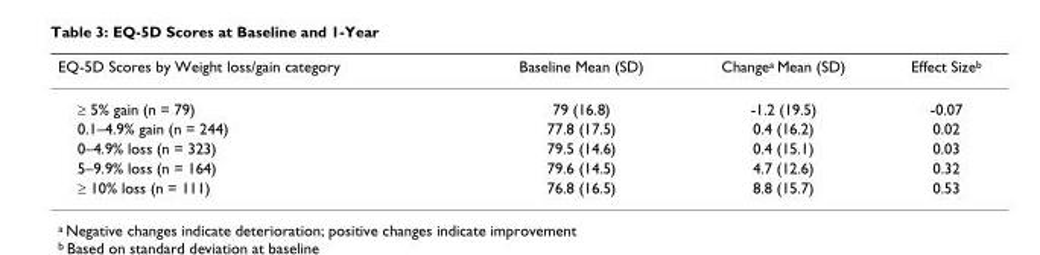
<table><thead><tr><td>EQ-5D Scores by Weight loss/gain category</td><td>Baseline Mean (SD)</td><td>Change<sup>a</sup> Mean (SD)</td><td>Effect Size<sup>b</sup></td></tr></thead><tbody><tr><td>≥ 5% gain (n = 79)</td><td>79 (16.8)</td><td>-1.2 (19.5)</td><td>-0.07</td></tr><tr><td>0.1–4.9% gain (n = 244)</td><td>77.8 (17.5)</td><td>0.4 (16.2)</td><td>0.02</td></tr><tr><td>0–4.9% loss (n = 323)</td><td>79.5 (14.6)</td><td>0.4 (15.1)</td><td>0.03</td></tr><tr><td>5–9.9% loss (n = 164)</td><td>79.6 (14.5)</td><td>4.7 (12.6)</td><td>0.32</td></tr><tr><td>≥ 10% loss (n = 111)</td><td>76.8 (16.5)</td><td>8.8 (15.7)</td><td>0.53</td></tr></tbody></table>